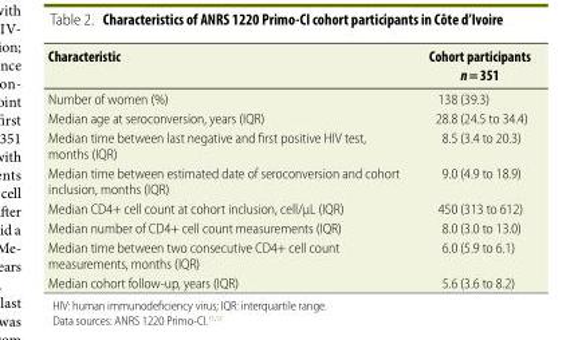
<table><thead><tr><td>Characteristic</td><td>Cohort participants n = 351</td></tr></thead><tbody><tr><td>Number of women (%)</td><td>138 (39.3)</td></tr><tr><td>Median age at seroconversion, years (IQR)</td><td>28.8 (24.5 to 34.4)</td></tr><tr><td>Median time between last negative and first positive HIV test, months (IQR)</td><td>8.5 (3.4 to 20.3)</td></tr><tr><td>Median time between estimated date of seroconversion and cohort inclusion, months (IQR)</td><td>9.0 (4.9 to 18.9)</td></tr><tr><td>Median CD4+ cell count at cohort inclusion, cell/μL (IQR)</td><td>450 (313 to 612)</td></tr><tr><td>Median number of CD4+ cell count measurements (IQR)</td><td>8.0 (3.0 to 13.0)</td></tr><tr><td>Median time between two consecutive CD4+ cell count measurements, months (IQR)</td><td>6.0 (5.9 to 6.1)</td></tr><tr><td>Median cohort follow-up, years (IQR)</td><td>5.6 (3.6 to 8.2)</td></tr></tbody></table>